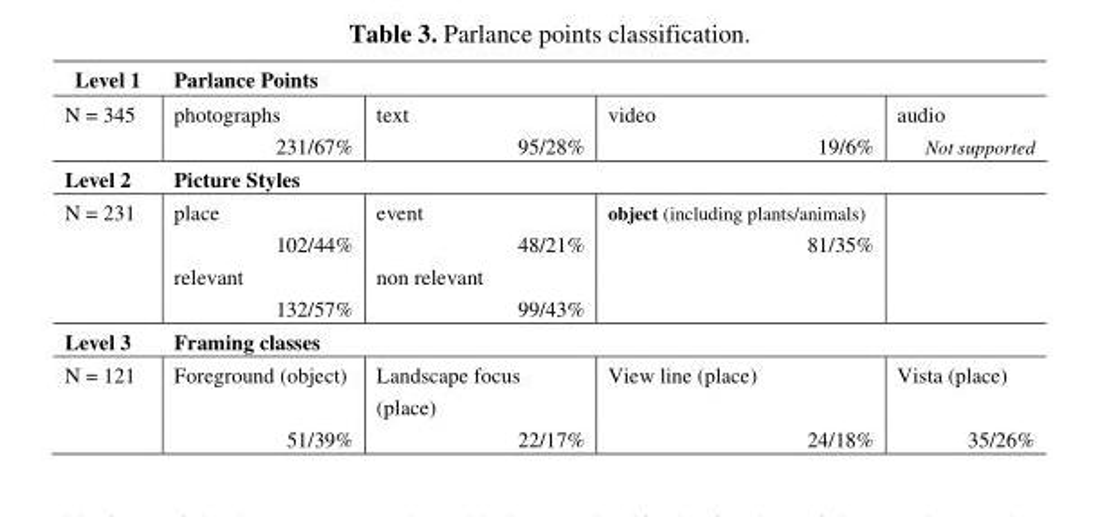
<table><tbody><tr><td>Level 1</td><td colspan="4">Parlance Points</td></tr><tr><td rowspan="2">N = 345</td><td>photographs</td><td>text</td><td>video</td><td>audio</td></tr><tr><td>231/67%</td><td>95/28%</td><td>19/6%</td><td>Not supported</td></tr><tr><td>Level 2</td><td colspan="4">Picture Styles</td></tr><tr><td rowspan="4">N = 231</td><td>place</td><td>event</td><td>object (including plants/animals)</td><td rowspan="4"></td></tr><tr><td>102/44%</td><td>48/21%</td><td>81/35%</td></tr><tr><td>relevant</td><td>non relevant</td><td rowspan="2"></td></tr><tr><td>132/57%</td><td>99/43%</td></tr><tr><td>Level 3</td><td colspan="4">Framing classes</td></tr><tr><td rowspan="2">N = 121</td><td>Foreground (object)</td><td>Landscape focus (place)</td><td>View line (place)</td><td>Vista (place)</td></tr><tr><td>51/39%</td><td>22/17%</td><td>24/18%</td><td>35/26%</td></tr></tbody></table>